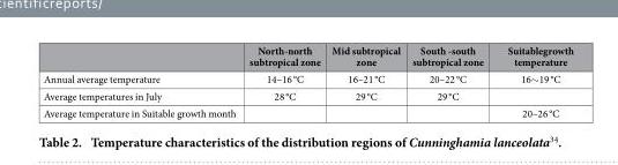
<table><thead><tr><td></td><td>North-north subtropical zone</td><td>Mid subtropical zone</td><td>South -south subtropical zone</td><td>Suitablegrowth temperature</td></tr></thead><tbody><tr><td>Annual average temperature</td><td>14–16 °C</td><td>16–21 °C</td><td>20–22 °C</td><td>16∼ 19 °C</td></tr><tr><td>Average temperatures in July</td><td>28 °C</td><td>29 °C</td><td>29 °C</td><td></td></tr><tr><td>Average temperature in Suitable growth month</td><td></td><td></td><td></td><td>20–26 °C</td></tr></tbody></table>